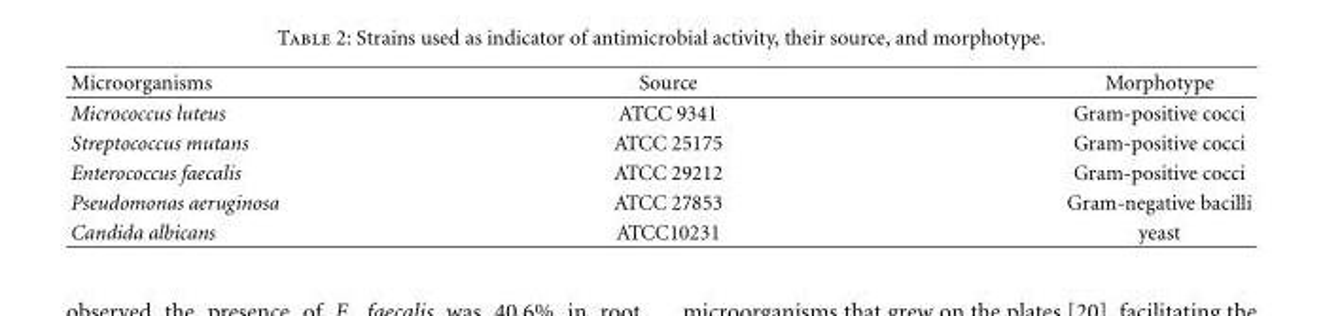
<table><thead><tr><td>Microorganisms</td><td>Source</td><td>Morphotype</td></tr></thead><tbody><tr><td>Micrococcus luteus</td><td>ATCC 9341</td><td>Gram-positive cocci</td></tr><tr><td>Streptococcus mutans</td><td>ATCC 25175</td><td>Gram-positive cocci</td></tr><tr><td>Enterococcus faecalis</td><td>ATCC 29212</td><td>Gram-positive cocci</td></tr><tr><td>Pseudomonas aeruginosa</td><td>ATCC 27853</td><td>Gram-negative bacilli</td></tr><tr><td>Candida albicans</td><td>ATCC10231</td><td>yeast</td></tr></tbody></table>